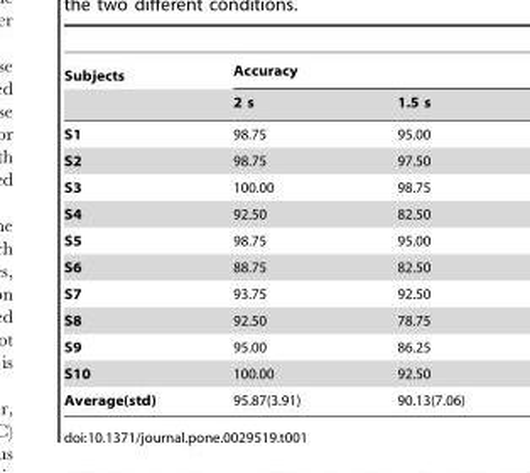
<table><thead><tr><td rowspan="2">Subjects</td><td colspan="2">Accuracy</td></tr><tr><td>2 s</td><td>1.5 s</td></tr></thead><tbody><tr><td>S1</td><td>98.75</td><td>95.00</td></tr><tr><td>S2</td><td>98.75</td><td>97.50</td></tr><tr><td>S3</td><td>100.00</td><td>98.75</td></tr><tr><td>S4</td><td>92.50</td><td>82.50</td></tr><tr><td>S5</td><td>98.75</td><td>95.00</td></tr><tr><td>S6</td><td>88.75</td><td>82.50</td></tr><tr><td>S7</td><td>93.75</td><td>92.50</td></tr><tr><td>S8</td><td>92.50</td><td>78.75</td></tr><tr><td>S9</td><td>95.00</td><td>86.25</td></tr><tr><td>S10</td><td>100.00</td><td>92.50</td></tr><tr><td>Average(std)</td><td>95.87(3.91)</td><td>90.13(7.06)</td></tr></tbody></table>